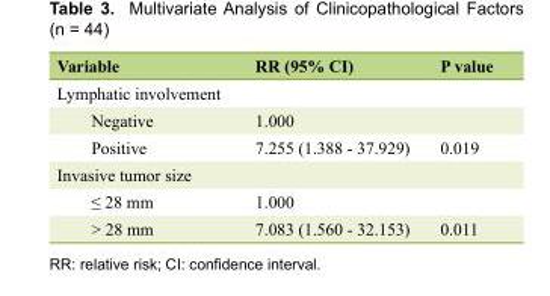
<table><thead><tr><td>Variable</td><td>RR (95% CI)</td><td>P value</td></tr></thead><tbody><tr><td colspan="3">Lymphatic involvement</td></tr><tr><td>Negative</td><td>1.000</td><td></td></tr><tr><td>Positive</td><td>7.255 (1.388 - 37.929)</td><td>0.019</td></tr><tr><td colspan="3">Invasive tumor size</td></tr><tr><td>≤ 28 mm</td><td>1.000</td><td></td></tr><tr><td>&gt; 28 mm</td><td>7.083 (1.560 - 32.153)</td><td>0.011</td></tr></tbody></table>